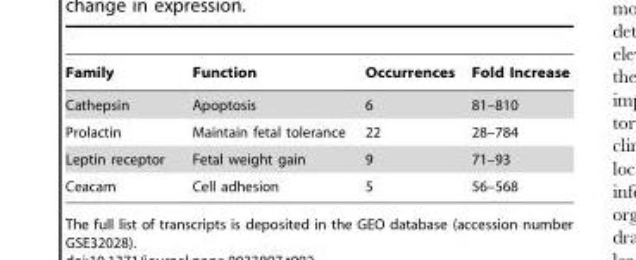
<table><thead><tr><td>Family</td><td>Function</td><td>Occurrences</td><td>Fold Increase</td></tr></thead><tbody><tr><td>Cathepsin</td><td>Apoptosis</td><td>6</td><td>81–810</td></tr><tr><td>Prolactin</td><td>Maintain fetal tolerance</td><td>22</td><td>28–784</td></tr><tr><td>Leptin receptor</td><td>Fetal weight gain</td><td>9</td><td>71–93</td></tr><tr><td>Ceacam</td><td>Cell adhesion</td><td>5</td><td>56–568</td></tr></tbody></table>